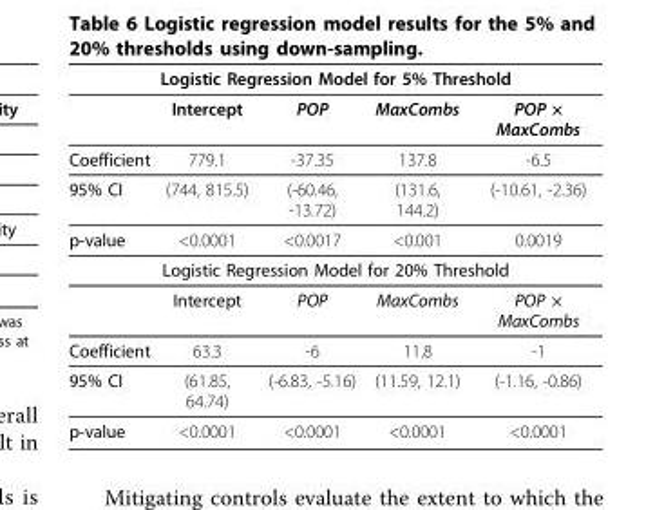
<table><thead><tr><td colspan="5">Logistic Regression Model for 5% Threshold</td></tr><tr><td></td><td>Intercept</td><td>POP</td><td>MaxCombs</td><td>POP × MaxCombs</td></tr></thead><tbody><tr><td>Coefficient</td><td>779.1</td><td>-37.35</td><td>137.8</td><td>-6.5</td></tr><tr><td>95% CI</td><td>(744, 815.5)</td><td>(-60.46, -13.72)</td><td>(131.6, 144.2)</td><td>(-10.61, -2.36)</td></tr><tr><td>p-value</td><td>&lt;0.0001</td><td>&lt;0.0017</td><td>&lt;0.001</td><td>0.0019</td></tr><tr><td colspan="5">Logistic Regression Model for 20% Threshold</td></tr><tr><td></td><td>Intercept</td><td>POP</td><td>MaxCombs</td><td>POP × MaxCombs</td></tr><tr><td>Coefficient</td><td>63.3</td><td>-6</td><td>11.8</td><td>-1</td></tr><tr><td>95% CI</td><td>(61.85, 64.74)</td><td>(-6.83, -5.16)</td><td>(11.59, 12.1)</td><td>(-1.16, -0.86)</td></tr><tr><td>p-value</td><td>&lt;0.0001</td><td>&lt;0.0001</td><td>&lt;0.0001</td><td>&lt;0.0001</td></tr></tbody></table>